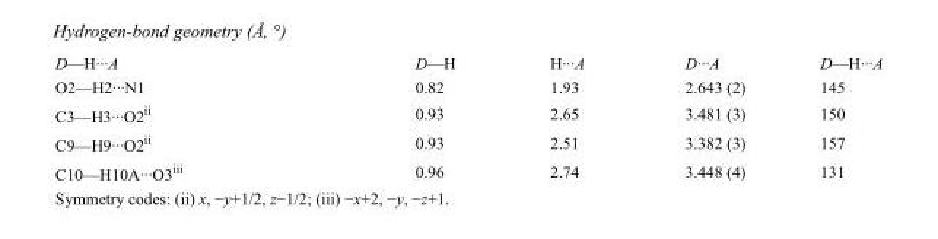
<table><tbody><tr><td>D—H···A</td><td>D—H</td><td>H···A</td><td>D···A</td><td>D—H···A</td></tr><tr><td>O2—H2···N1</td><td>0.82</td><td>1.93</td><td>2.643 (2)</td><td>145</td></tr><tr><td>C3—H3···O2<sup>ii</sup></td><td>0.93</td><td>2.65</td><td>3.481 (3)</td><td>150</td></tr><tr><td>C9—H9···O2<sup>ii</sup></td><td>0.93</td><td>2.51</td><td>3.382 (3)</td><td>157</td></tr><tr><td>C10—H10A···O3<sup>iii</sup></td><td>0.96</td><td>2.74</td><td>3.448 (4)</td><td>131</td></tr></tbody></table>